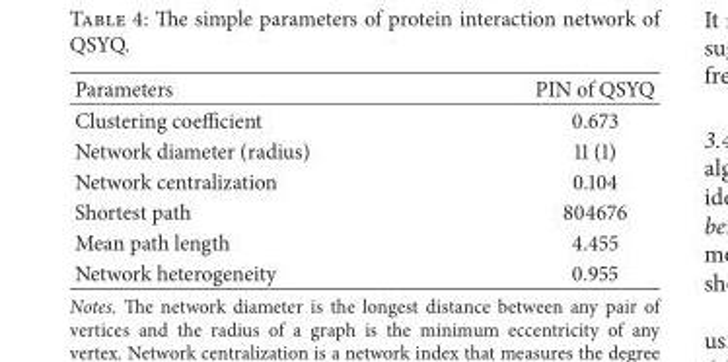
<table><thead><tr><td>Parameters</td><td>PIN of QSYQ</td></tr></thead><tbody><tr><td>Clustering coefficient</td><td>0.673</td></tr><tr><td>Network diameter (radius)</td><td>11 (1)</td></tr><tr><td>Network centralization</td><td>0.104</td></tr><tr><td>Shortest path</td><td>804676</td></tr><tr><td>Mean path length</td><td>4.455</td></tr><tr><td>Network heterogeneity</td><td>0.955</td></tr></tbody></table>